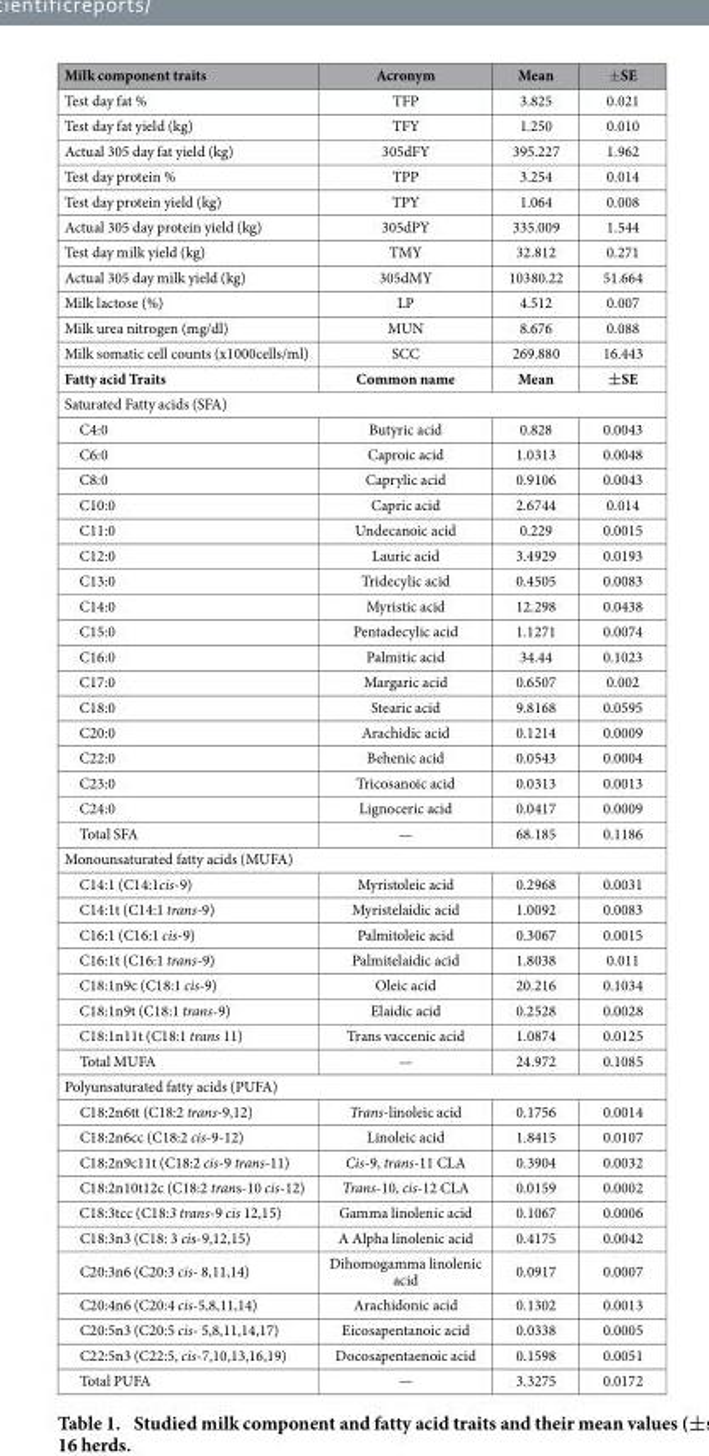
<table><thead><tr><td>Milk component traits</td><td>Acronym</td><td>Mean</td><td>± SE</td></tr></thead><tbody><tr><td>Test day fat %</td><td>TFP</td><td>3.825</td><td>0.021</td></tr><tr><td>Test day fat yield (kg)</td><td>TFY</td><td>1.250</td><td>0.010</td></tr><tr><td>Actual 305 day fat yield (kg)</td><td>305dFY</td><td>395.227</td><td>1.962</td></tr><tr><td>Test day protein %</td><td>TPP</td><td>3.254</td><td>0.014</td></tr><tr><td>Test day protein yield (kg)</td><td>TPY</td><td>1.064</td><td>0.008</td></tr><tr><td>Actual 305 day protein yield (kg)</td><td>305dPY</td><td>335.009</td><td>1.544</td></tr><tr><td>Test day milk yield (kg)</td><td>TMY</td><td>32.812</td><td>0.271</td></tr><tr><td>Actual 305 day milk yield (kg)</td><td>305dMY</td><td>10380.22</td><td>51.664</td></tr><tr><td>Milk lactose (%)</td><td>LP</td><td>4.512</td><td>0.007</td></tr><tr><td>Milk urea nitrogen (mg/dl)</td><td>MUN</td><td>8.676</td><td>0.088</td></tr><tr><td>Milk somatic cell counts (x1000cells/ml)</td><td>SCC</td><td>269.880</td><td>16.443</td></tr><tr><td>Fatty acid Traits</td><td>Common name</td><td>Mean</td><td>±SE</td></tr><tr><td colspan="4">Saturated Fatty acids (SFA)</td></tr><tr><td>C4:0</td><td>Butyric acid</td><td>0.828</td><td>0.0043</td></tr><tr><td>C6:0</td><td>Caproic acid</td><td>1.0313</td><td>0.0048</td></tr><tr><td>C8:0</td><td>Caprylic acid</td><td>0.9106</td><td>0.0043</td></tr><tr><td>C10:0</td><td>Capric acid</td><td>2.6744</td><td>0.014</td></tr><tr><td>C11:0</td><td>Undecanoic acid</td><td>0.229</td><td>0.0015</td></tr><tr><td>C12:0</td><td>Lauric acid</td><td>3.4929</td><td>0.0193</td></tr><tr><td>C13:0</td><td>Tridecylic acid</td><td>0.4505</td><td>0.0083</td></tr><tr><td>C14:0</td><td>Myristic acid</td><td>12.298</td><td>0.0438</td></tr><tr><td>C15:0</td><td>Pentadecylic acid</td><td>1.1271</td><td>0.0074</td></tr><tr><td>C16:0</td><td>Palmitic acid</td><td>34.44</td><td>0.1023</td></tr><tr><td>C17:0</td><td>Margaric acid</td><td>0.6507</td><td>0.002</td></tr><tr><td>C18:0</td><td>Stearic acid</td><td>9.8168</td><td>0.0595</td></tr><tr><td>C20:0</td><td>Arachidic acid</td><td>0.1214</td><td>0.0009</td></tr><tr><td>C22:0</td><td>Behenic acid</td><td>0.0543</td><td>0.0004</td></tr><tr><td>C23:0</td><td>Tricosanoic acid</td><td>0.0313</td><td>0.0013</td></tr><tr><td>C24:0</td><td>Lignoceric acid</td><td>0.0417</td><td>0.0009</td></tr><tr><td>Total SFA</td><td>—</td><td>68.185</td><td>0.1186</td></tr><tr><td colspan="4">Monounsaturated fatty acids (MUFA)</td></tr><tr><td>C14:1 (C14:1cis-9)</td><td>Myristoleic acid</td><td>0.2968</td><td>0.0031</td></tr><tr><td>C14:1t (C14:1 trans-9)</td><td>Myristelaidic acid</td><td>1.0092</td><td>0.0083</td></tr><tr><td>C16:1 (C16:1 cis-9)</td><td>Palmitoleic acid</td><td>0.3067</td><td>0.0015</td></tr><tr><td>C16:1t (C16:1 trans-9)</td><td>Palmitelaidic acid</td><td>1.8038</td><td>0.011</td></tr><tr><td>C18:1n9c (C18:1 cis-9)</td><td>Oleic acid</td><td>20.216</td><td>0.1034</td></tr><tr><td>C18:1n9t (C18:1 trans-9)</td><td>Elaidic acid</td><td>0.2528</td><td>0.0028</td></tr><tr><td>C18:1n11t (C18:1 trans 11)</td><td>Trans vaccenic acid</td><td>1.0874</td><td>0.0125</td></tr><tr><td>Total MUFA</td><td>—</td><td>24.972</td><td>0.1085</td></tr><tr><td colspan="4">Polyunsaturated fatty acids (PUFA)</td></tr><tr><td>C18:2n6tt (C18:2 trans-9,12)</td><td>Trans-linoleic acid</td><td>0.1756</td><td>0.0014</td></tr><tr><td>C18:2n6cc (C18:2 cis-9-12)</td><td>Linoleic acid</td><td>1.8415</td><td>0.0107</td></tr><tr><td>C18:2n9c11t (C18:2 cis-9 trans-11)</td><td>Cis-9, trans-11 CLA</td><td>0.3904</td><td>0.0032</td></tr><tr><td>C18:2n10t12c (C18:2 trans-10 cis-12)</td><td>Trans-10, cis-12 CLA</td><td>0.0159</td><td>0.0002</td></tr><tr><td>C18:3tcc (C18:3 trans-9 cis 12,15)</td><td>Gamma linolenic acid</td><td>0.1067</td><td>0.0006</td></tr><tr><td>C18:3n3 (C18: 3 cis-9,12,15)</td><td>A Alpha linolenic acid</td><td>0.4175</td><td>0.0042</td></tr><tr><td>C20:3n6 (C20:3 cis- 8,11,14)</td><td>Dihomogamma linolenic acid</td><td>0.0917</td><td>0.0007</td></tr><tr><td>C20:4n6 (C20:4 cis-5,8,11,14)</td><td>Arachidonic acid</td><td>0.1302</td><td>0.0013</td></tr><tr><td>C20:5n3 (C20:5 cis- 5,8,11,14,17)</td><td>Eicosapentanoic acid</td><td>0.0338</td><td>0.0005</td></tr><tr><td>C22:5n3 (C22:5, cis-7,10,13,16,19)</td><td>Docosapentaenoic acid</td><td>0.1598</td><td>0.0051</td></tr><tr><td>Total PUFA</td><td>—</td><td>3.3275</td><td>0.0172</td></tr></tbody></table>